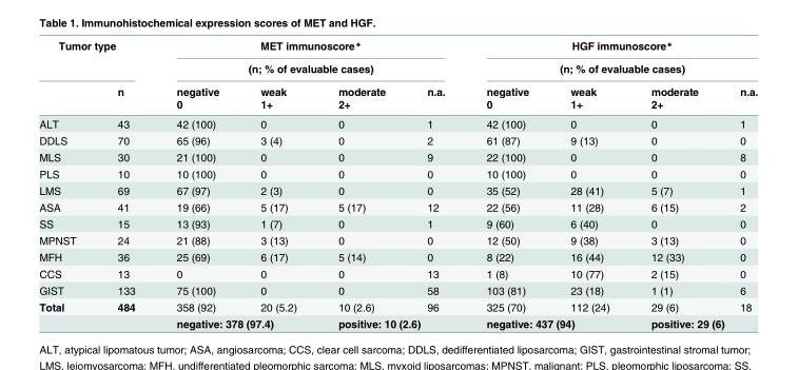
<table><thead><tr><td rowspan="2" colspan="2">Tumor type</td><td rowspan="2" colspan="4">MET immunoscore* (n; % of evaluable cases)</td><td rowspan="2" colspan="4">HGF immunoscore* (n; % of evaluable cases)</td></tr><tr></tr><tr><td rowspan="2"></td><td rowspan="2">n</td><td rowspan="2">negative 0</td><td rowspan="2">weak 1+</td><td rowspan="2">moderate 2+</td><td rowspan="2">n.a.</td><td rowspan="2">negative 0</td><td rowspan="2">weak 1+</td><td rowspan="2">moderate 2+</td><td rowspan="2">n.a.</td></tr><tr></tr></thead><tbody><tr><td>ALT</td><td>43</td><td>42 (100)</td><td>0</td><td>0</td><td>1</td><td>42 (100)</td><td>0</td><td>0</td><td>1</td></tr><tr><td>DDLS</td><td>70</td><td>65 (96)</td><td>3 (4)</td><td>0</td><td>2</td><td>61 (87)</td><td>9 (13)</td><td>0</td><td>0</td></tr><tr><td>MLS</td><td>30</td><td>21 (100)</td><td>0</td><td>0</td><td>9</td><td>22 (100)</td><td>0</td><td>0</td><td>8</td></tr><tr><td>PLS</td><td>10</td><td>10 (100)</td><td>0</td><td>0</td><td>0</td><td>10 (100)</td><td>0</td><td>0</td><td>0</td></tr><tr><td>LMS</td><td>69</td><td>67 (97)</td><td>2 (3)</td><td>0</td><td>0</td><td>35 (52)</td><td>28 (41)</td><td>5 (7)</td><td>1</td></tr><tr><td>ASA</td><td>41</td><td>19 (66)</td><td>5 (17)</td><td>5 (17)</td><td>12</td><td>22 (56)</td><td>11 (28)</td><td>6 (15)</td><td>2</td></tr><tr><td>SS</td><td>15</td><td>13 (93)</td><td>1 (7)</td><td>0</td><td>1</td><td>9 (60)</td><td>6 (40)</td><td>0</td><td>0</td></tr><tr><td>MPNST</td><td>24</td><td>21 (88)</td><td>3 (13)</td><td>0</td><td>0</td><td>12 (50)</td><td>9 (38)</td><td>3 (13)</td><td>0</td></tr><tr><td>MFH</td><td>36</td><td>25 (69)</td><td>6 (17)</td><td>5 (14)</td><td>0</td><td>8 (22)</td><td>16 (44)</td><td>12 (33)</td><td>0</td></tr><tr><td>CCS</td><td>13</td><td>0</td><td>0</td><td>0</td><td>13</td><td>1 (8)</td><td>10 (77)</td><td>2 (15)</td><td>0</td></tr><tr><td>GIST</td><td>133</td><td>75 (100)</td><td>0</td><td>0</td><td>58</td><td>103 (81)</td><td>23 (18)</td><td>1 (1)</td><td>6</td></tr><tr><td rowspan="2">Total</td><td>484</td><td>358 (92)</td><td>20 (5.2)</td><td>10 (2.6)</td><td>96</td><td>325 (70)</td><td>112 (24)</td><td>29 (6)</td><td>18</td></tr><tr><td></td><td colspan="2">negative: 378 (97.4)</td><td colspan="2">positive: 10 (2.6)</td><td colspan="2">negative: 437 (94)</td><td colspan="2">positive: 29 (6)</td></tr></tbody></table>